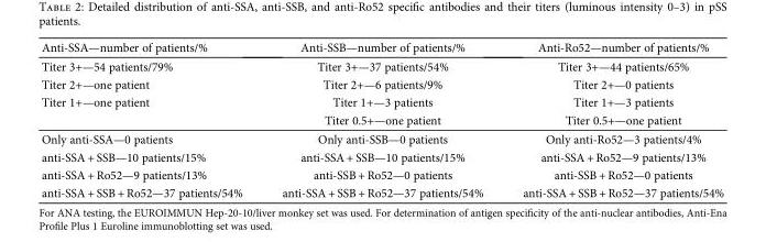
<table><thead><tr><td>Anti-SSA—number of patients/%</td><td>Anti-SSB—number of patients/%</td><td>Anti-Ro52—number of patients/%</td></tr></thead><tbody><tr><td>Titer 3+—54 patients/79%</td><td>Titer 3+—37 patients/54%</td><td>Titer 3+—44 patients/65%</td></tr><tr><td>Titer 2+—one patient</td><td>Titer 2+—6 patients/9%</td><td>Titer 2+—0 patients</td></tr><tr><td rowspan="2">Titer 1+—one patient</td><td>Titer 1+—3 patients</td><td>Titer 1+—3 patients</td></tr><tr><td>Titer 0.5+—one patient</td><td>Titer 0.5+—one patient</td></tr><tr><td>Only anti-SSA—0 patients</td><td>Only anti-SSB—0 patients</td><td>Only anti-Ro52—3 patients/4%</td></tr><tr><td>anti-SSA + SSB—10 patients/15%</td><td>anti-SSA + SSB—10 patients/15%</td><td>anti-SSA + Ro52—9 patients/13%</td></tr><tr><td>anti-SSA + Ro52—9 patients/13%</td><td>anti-SSB + Ro52—0 patients</td><td>anti-SSB + Ro52—0 patients</td></tr><tr><td>anti-SSA + SSB + Ro52—37 patients/54%</td><td>anti-SSA + SSB + Ro52—37 patients/54%</td><td>anti-SSA + SSB + Ro52—37 patients/54%</td></tr></tbody></table>